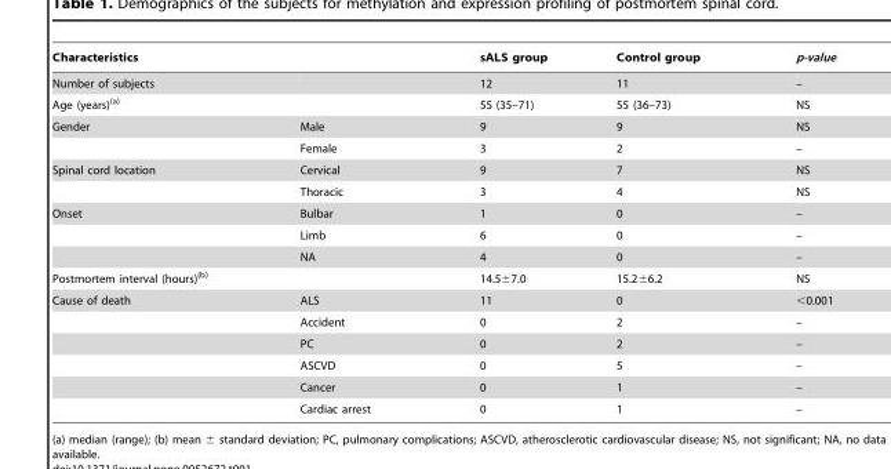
<table><thead><tr><td>Characteristics</td><td></td><td>sALS group</td><td>Control group</td><td>p-value</td></tr></thead><tbody><tr><td>Number of subjects</td><td></td><td>12</td><td>11</td><td>–</td></tr><tr><td>Age (years)<sup>(a)</sup></td><td></td><td>55 (35–71)</td><td>55 (36–73)</td><td>NS</td></tr><tr><td rowspan="2">Gender</td><td>Male</td><td>9</td><td>9</td><td>NS</td></tr><tr><td>Female</td><td>3</td><td>2</td><td>–</td></tr><tr><td rowspan="2">Spinal cord location</td><td>Cervical</td><td>9</td><td>7</td><td>NS</td></tr><tr><td>Thoracic</td><td>3</td><td>4</td><td>NS</td></tr><tr><td rowspan="3">Onset</td><td>Bulbar</td><td>1</td><td>0</td><td>–</td></tr><tr><td>Limb</td><td>6</td><td>0</td><td>–</td></tr><tr><td>NA</td><td>4</td><td>0</td><td>–</td></tr><tr><td>Postmortem interval (hours)<sup>(b)</sup></td><td></td><td>14.5±7.0</td><td>15.2±6.2</td><td>NS</td></tr><tr><td rowspan="6">Cause of death</td><td>ALS</td><td>11</td><td>0</td><td>&lt;0.001</td></tr><tr><td>Accident</td><td>0</td><td>2</td><td>–</td></tr><tr><td>PC</td><td>0</td><td>2</td><td>–</td></tr><tr><td>ASCVD</td><td>0</td><td>5</td><td>–</td></tr><tr><td>Cancer</td><td>0</td><td>1</td><td>–</td></tr><tr><td>Cardiac arrest</td><td>0</td><td>1</td><td>–</td></tr></tbody></table>